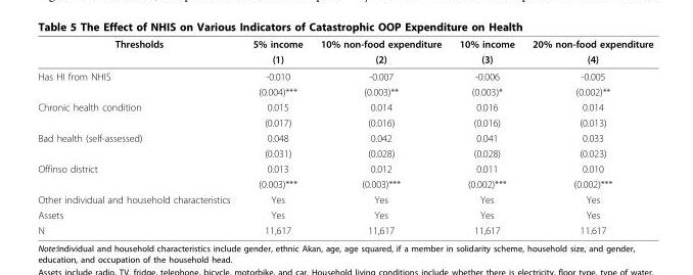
<table><thead><tr><td rowspan="2">Thresholds</td><td rowspan="2">5% income (1)</td><td rowspan="2">10% non-food expenditure (2)</td><td rowspan="2">10% income (3)</td><td rowspan="2">20% non-food expenditure (4)</td></tr><tr></tr></thead><tbody><tr><td rowspan="2">Has HI from NHIS</td><td>-0.010</td><td>-0.007</td><td>-0.006</td><td>-0.005</td></tr><tr><td>(0.004)***</td><td>(0.003)**</td><td>(0.003)*</td><td>(0.002)**</td></tr><tr><td rowspan="2">Chronic health condition</td><td>0.015</td><td>0.014</td><td>0.016</td><td>0.014</td></tr><tr><td>(0.017)</td><td>(0.016)</td><td>(0.016)</td><td>(0.013)</td></tr><tr><td rowspan="2">Bad health (self-assessed)</td><td>0.048</td><td>0.042</td><td>0.041</td><td>0.033</td></tr><tr><td>(0.031)</td><td>(0.028)</td><td>(0.028)</td><td>(0.023)</td></tr><tr><td rowspan="2">Offinso district</td><td>0.013</td><td>0.012</td><td>0.011</td><td>0.010</td></tr><tr><td>(0.003)***</td><td>(0.003)***</td><td>(0.002)***</td><td>(0.002)***</td></tr><tr><td>Other individual and household characteristics</td><td>Yes</td><td>Yes</td><td>Yes</td><td>Yes</td></tr><tr><td>Assets</td><td>Yes</td><td>Yes</td><td>Yes</td><td>Yes</td></tr><tr><td>N</td><td>11,617</td><td>11,617</td><td>11,617</td><td>11.617</td></tr></tbody></table>